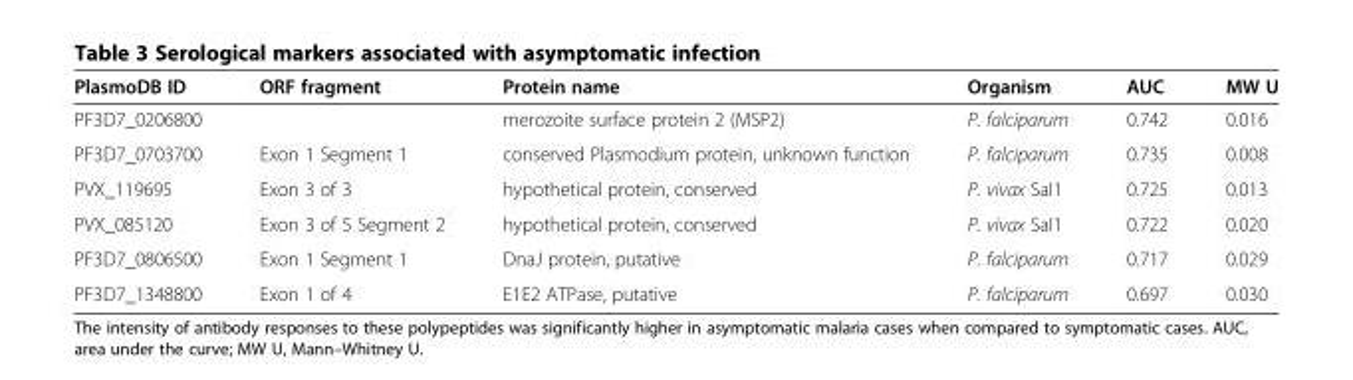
<table><thead><tr><td>PlasmoDB ID</td><td>ORF fragment</td><td>Protein name</td><td>Organism</td><td>AUC</td><td>MW U</td></tr></thead><tbody><tr><td>PF3D7_0206800</td><td></td><td>merozoite surface protein 2 (MSP2)</td><td>P. falciparum</td><td>0.742</td><td>0.016</td></tr><tr><td>PF3D7_0703700</td><td>Exon 1 Segment 1</td><td>conserved Plasmodium protein, unknown function</td><td>P. falciparum</td><td>0.735</td><td>0.008</td></tr><tr><td>PVX_119695</td><td>Exon 3 of 3</td><td>hypothetical protein, conserved</td><td>P. vivax SaI1</td><td>0.725</td><td>0.013</td></tr><tr><td>PVX_085120</td><td>Exon 3 of 5 Segment 2</td><td>hypothetical protein, conserved</td><td>P. vivax SaI1</td><td>0.722</td><td>0.020</td></tr><tr><td>PF3D7_0806500</td><td>Exon 1 Segment 1</td><td>DnaJ protein, putative</td><td>P. falciparum</td><td>0.717</td><td>0.029</td></tr><tr><td>PF3D7_1348800</td><td>Exon 1 of 4</td><td>E1E2 ATPase, putative</td><td>P. falciparum</td><td>0.697</td><td>0.030</td></tr></tbody></table>